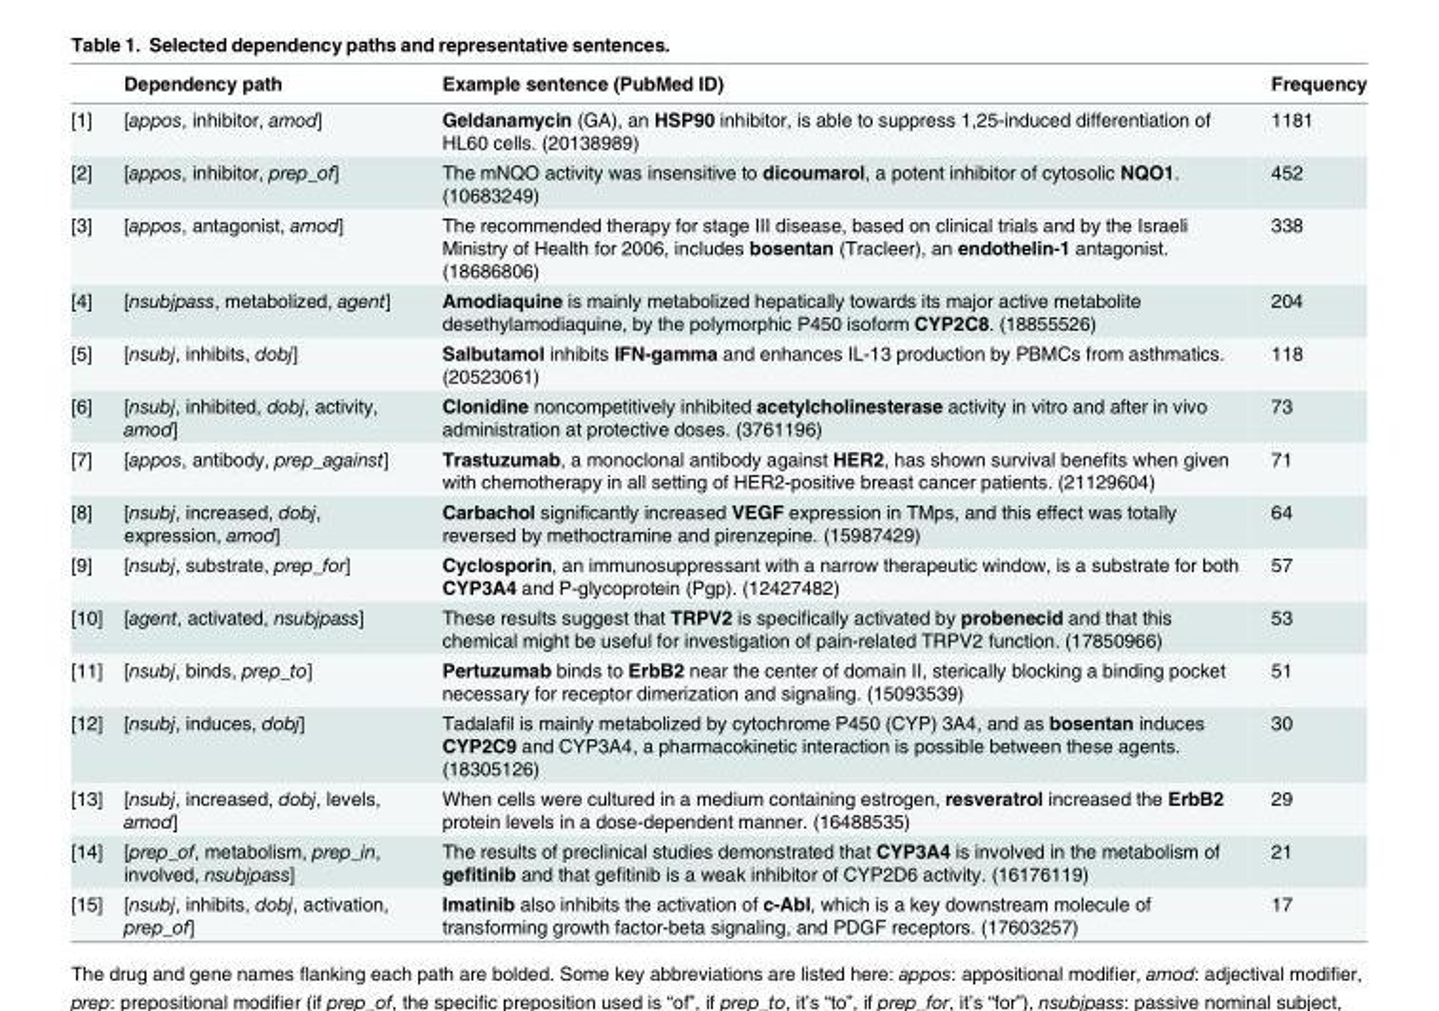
<table><thead><tr><td></td><td>Dependency path</td><td>Example sentence (PubMed ID)</td><td>Frequency</td></tr></thead><tbody><tr><td>[1]</td><td>[appos, inhibitor, amod]</td><td>Geldanamycin (GA), an HSP90 inhibitor, is able to suppress 1,25-induced differentiation of HL60 cells. (20138989)</td><td>1181</td></tr><tr><td>[2]</td><td>[appos, inhibitor, prep_of]</td><td>The mNQO activity was insensitive to dicoumarol, a potent inhibitor of cytosolic NQO1. (10683249)</td><td>452</td></tr><tr><td>[3]</td><td>[appos, antagonist, amod]</td><td>The recommended therapy for stage III disease, based on clinical trials and by the Israeli Ministry of Health for 2006, includes bosentan (Tracleer), an endothelin-1 antagonist. (18686806)</td><td>338</td></tr><tr><td>[4]</td><td>[nsubjpass, metabolized, agent]</td><td>Amodiaquine is mainly metabolized hepatically towards its major active metabolite desethylamodiaquine, by the polymorphic P450 isoform CYP2C8. (18855526)</td><td>204</td></tr><tr><td>[5]</td><td>[nsubj, inhibits, dobj]</td><td>Salbutamol inhibits IFN-gamma and enhances IL-13 production by PBMCs from asthmatics. (20523061)</td><td>118</td></tr><tr><td>[6]</td><td>[nsubj, inhibited, dobj, activity, amod]</td><td>Clonidine noncompetitively inhibited acetylcholinesterase activity in vitro and after in vivo administration at protective doses. (3761196)</td><td>73</td></tr><tr><td>[7]</td><td>[appos, antibody, prep_against]</td><td>Trastuzumab, a monoclonal antibody against HER2, has shown survival benefits when given with chemotherapy in all setting of HER2-positive breast cancer patients. (21129604)</td><td>71</td></tr><tr><td>[8]</td><td>[nsubj, increased, dobj, expression, amod]</td><td>Carbachol significantly increased VEGF expression in TMps, and this effect was totally reversed by methoctramine and pirenzepine. (15987429)</td><td>64</td></tr><tr><td>[9]</td><td>[nsubj, substrate, prep_for]</td><td>Cyclosporin, an immunosuppressant with a narrow therapeutic window, is a substrate for both CYP3A4 and P-glycoprotein (Pgp). (12427482)</td><td>57</td></tr><tr><td>[10]</td><td>[agent, activated, nsubjpass]</td><td>These results suggest that TRPV2 is specifically activated by probenecid and that this chemical might be useful for investigation of pain-related TRPV2 function. (17850966)</td><td>53</td></tr><tr><td>[11]</td><td>[nsubj, binds, prep_to]</td><td>Pertuzumab binds to ErbB2 near the center of domain II, sterically blocking a binding pocket necessary for receptor dimerization and signaling. (15093539)</td><td>51</td></tr><tr><td>[12]</td><td>[nsubj, induces, dobj]</td><td>Tadalafil is mainly metabolized by cytochrome P450 (CYP) 3A4, and as bosentan induces CYP2C9 and CYP3A4, a pharmacokinetic interaction is possible between these agents. (18305126)</td><td>30</td></tr><tr><td>[13]</td><td>[nsubj, increased, dobj, levels, amod]</td><td>When cells were cultured in a medium containing estrogen, resveratrol increased the ErbB2 protein levels in a dose-dependent manner. (16488535)</td><td>29</td></tr><tr><td>[14]</td><td>[prep_of, metabolism, prep_in, involved, nsubjpass]</td><td>The results of preclinical studies demonstrated that CYP3A4 is involved in the metabolism of gefitinib and that gefitinib is a weak inhibitor of CYP2D6 activity. (16176119)</td><td>21</td></tr><tr><td>[15]</td><td>[nsubj, inhibits, dobj, activation, prep_of]</td><td>Imatinib also inhibits the activation of c-Abl, which is a key downstream molecule of transforming growth factor-beta signaling, and PDGF receptors. (17603257)</td><td>17</td></tr></tbody></table>